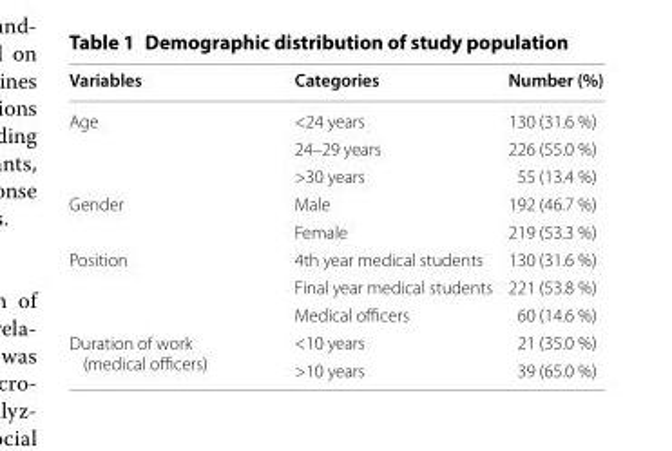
<table><thead><tr><td>Variables</td><td>Categories</td><td>Number (%)</td></tr></thead><tbody><tr><td rowspan="3">Age</td><td>&lt;24 years</td><td>130 (31.6 %)</td></tr><tr><td>24–29 years</td><td>226 (55.0 %)</td></tr><tr><td>&gt;30 years</td><td>55 (13.4 %)</td></tr><tr><td rowspan="2">Gender</td><td>Male</td><td>192 (46.7 %)</td></tr><tr><td>Female</td><td>219 (53.3 %)</td></tr><tr><td rowspan="3">Position</td><td>4th year medical students</td><td>130 (31.6 %)</td></tr><tr><td>Final year medical students</td><td>221 (53.8 %)</td></tr><tr><td>Medical officers</td><td>60 (14.6 %)</td></tr><tr><td rowspan="2">Duration of work (medical officers)</td><td>&lt;10 years</td><td>21 (35.0 %)</td></tr><tr><td>&gt;10 years</td><td>39 (65.0 %)</td></tr></tbody></table>